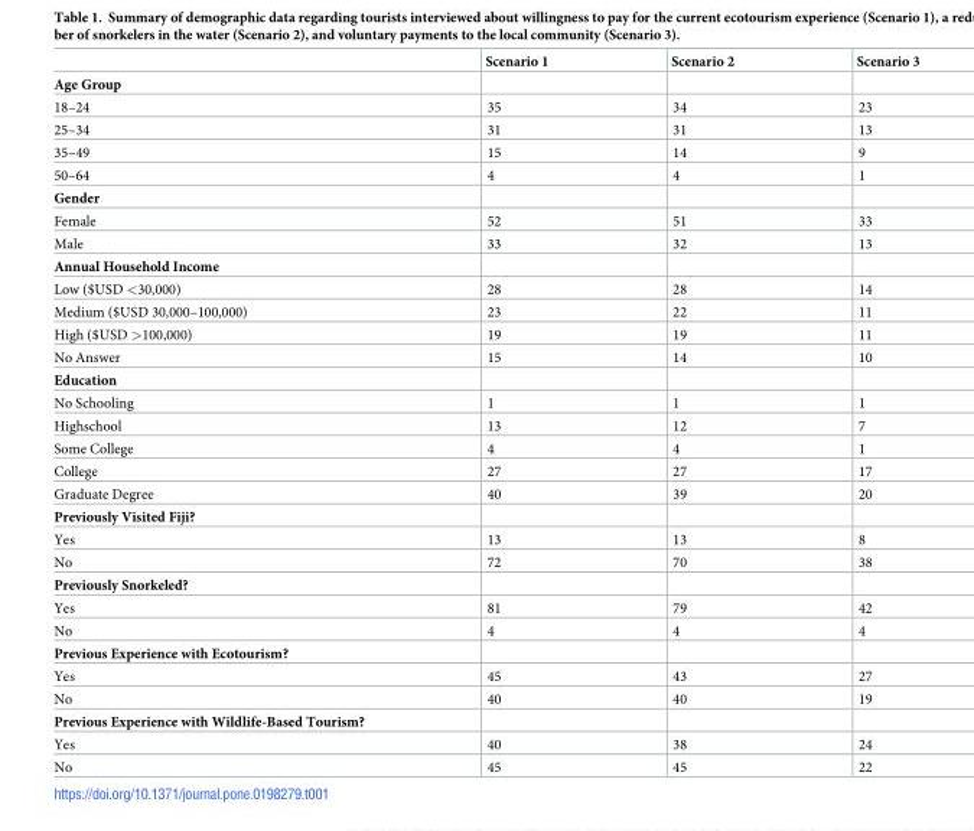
<table><thead><tr><td></td><td>Scenario 1</td><td>Scenario 2</td><td>Scenario 3</td></tr></thead><tbody><tr><td colspan="4">Age Group</td></tr><tr><td>18–24</td><td>35</td><td>34</td><td>23</td></tr><tr><td>25–34</td><td>31</td><td>31</td><td>13</td></tr><tr><td>35–49</td><td>15</td><td>14</td><td>9</td></tr><tr><td>50–64</td><td>4</td><td>4</td><td>1</td></tr><tr><td colspan="4">Gender</td></tr><tr><td>Female</td><td>52</td><td>51</td><td>33</td></tr><tr><td>Male</td><td>33</td><td>32</td><td>13</td></tr><tr><td colspan="4">Annual Household Income</td></tr><tr><td>Low ($USD &lt;30,000)</td><td>28</td><td>28</td><td>14</td></tr><tr><td>Medium ($USD 30,000–100,000)</td><td>23</td><td>22</td><td>11</td></tr><tr><td>High ($USD &gt;100,000)</td><td>19</td><td>19</td><td>11</td></tr><tr><td>No Answer</td><td>15</td><td>14</td><td>10</td></tr><tr><td colspan="4">Education</td></tr><tr><td>No Schooling</td><td>1</td><td>1</td><td>1</td></tr><tr><td>Highschool</td><td>13</td><td>12</td><td>7</td></tr><tr><td>Some College</td><td>4</td><td>4</td><td>1</td></tr><tr><td>College</td><td>27</td><td>27</td><td>17</td></tr><tr><td>Graduate Degree</td><td>40</td><td>39</td><td>20</td></tr><tr><td colspan="4">Previously Visited Fiji?</td></tr><tr><td>Yes</td><td>13</td><td>13</td><td>8</td></tr><tr><td>No</td><td>72</td><td>70</td><td>38</td></tr><tr><td colspan="4">Previously Snorkeled?</td></tr><tr><td>Yes</td><td>81</td><td>79</td><td>42</td></tr><tr><td>No</td><td>4</td><td>4</td><td>4</td></tr><tr><td colspan="4">Previous Experience with Ecotourism?</td></tr><tr><td>Yes</td><td>45</td><td>43</td><td>27</td></tr><tr><td>No</td><td>40</td><td>40</td><td>19</td></tr><tr><td colspan="4">Previous Experience with Wildlife-Based Tourism?</td></tr><tr><td>Yes</td><td>40</td><td>38</td><td>24</td></tr><tr><td>No</td><td>45</td><td>45</td><td>22</td></tr></tbody></table>